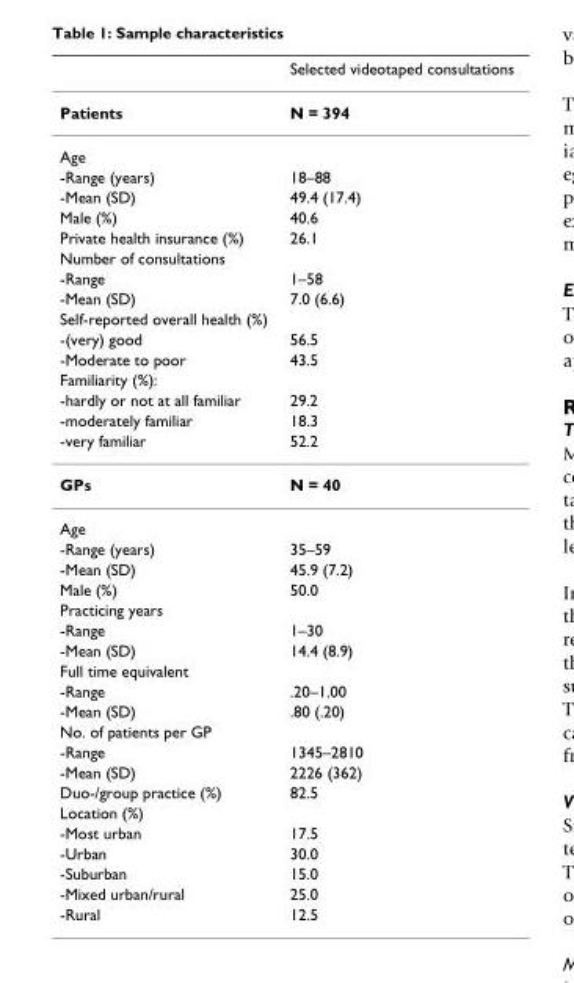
<table><thead><tr><td></td><td>Selected videotaped consultations</td></tr></thead><tbody><tr><td>Patients</td><td>N = 394</td></tr><tr><td colspan="2">Age</td></tr><tr><td>-Range (years)</td><td>18–88</td></tr><tr><td>-Mean (SD)</td><td>49.4 (17.4)</td></tr><tr><td>Male (%)</td><td>40.6</td></tr><tr><td>Private health insurance (%)</td><td>26.1</td></tr><tr><td colspan="2">Number of consultations</td></tr><tr><td>-Range</td><td>1–58</td></tr><tr><td>-Mean (SD)</td><td>7.0 (6.6)</td></tr><tr><td colspan="2">Self-reported overall health (%)</td></tr><tr><td>-(very) good</td><td>56.5</td></tr><tr><td>-Moderate to poor</td><td>43.5</td></tr><tr><td colspan="2">Familiarity (%):</td></tr><tr><td>-hardly or not at all familiar</td><td>29.2</td></tr><tr><td>-moderately familiar</td><td>18.3</td></tr><tr><td>-very familiar</td><td>52.2</td></tr><tr><td>GPs</td><td>N = 40</td></tr><tr><td colspan="2">Age</td></tr><tr><td>-Range (years)</td><td>35–59</td></tr><tr><td>-Mean (SD)</td><td>45.9 (7.2)</td></tr><tr><td>Male (%)</td><td>50.0</td></tr><tr><td colspan="2">Practicing years</td></tr><tr><td>-Range</td><td>1–30</td></tr><tr><td>-Mean (SD)</td><td>14.4 (8.9)</td></tr><tr><td colspan="2">Full time equivalent</td></tr><tr><td>-Range</td><td>.20–1.00</td></tr><tr><td>-Mean (SD)</td><td>.80 (.20)</td></tr><tr><td colspan="2">No. of patients per GP</td></tr><tr><td>-Range</td><td>1345–2810</td></tr><tr><td>-Mean (SD)</td><td>2226 (362)</td></tr><tr><td>Duo-/group practice (%)</td><td>82.5</td></tr><tr><td colspan="2">Location (%)</td></tr><tr><td>-Most urban</td><td>17.5</td></tr><tr><td>-Urban</td><td>30.0</td></tr><tr><td>-Suburban</td><td>15.0</td></tr><tr><td>-Mixed urban/rural</td><td>25.0</td></tr><tr><td>-Rural</td><td>12.5</td></tr></tbody></table>